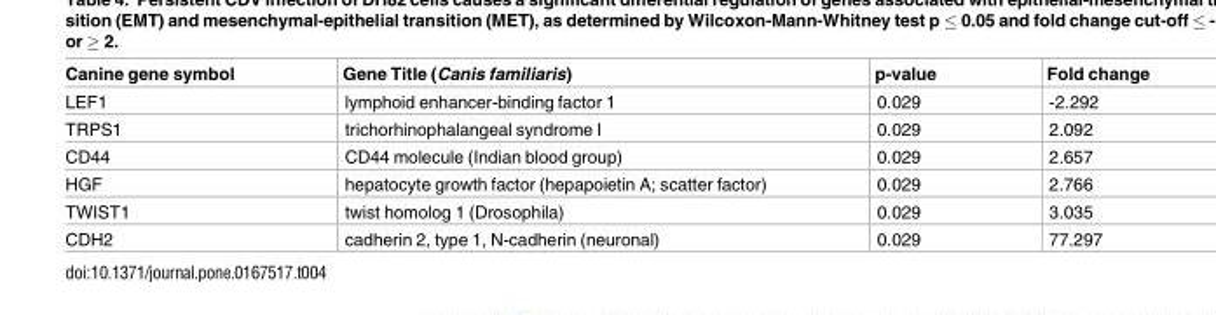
<table><thead><tr><td>Canine gene symbol</td><td>Gene Title (Canis familiaris)</td><td>p-value</td><td>Fold change</td></tr></thead><tbody><tr><td>LEF1</td><td>lymphoid enhancer-binding factor 1</td><td>0.029</td><td>-2.292</td></tr><tr><td>TRPS1</td><td>trichorhinophalangeal syndrome I</td><td>0.029</td><td>2.092</td></tr><tr><td>CD44</td><td>CD44 molecule (Indian blood group)</td><td>0.029</td><td>2.657</td></tr><tr><td>HGF</td><td>hepatocyte growth factor (hepapoietin A; scatter factor)</td><td>0.029</td><td>2.766</td></tr><tr><td>TWIST1</td><td>twist homolog 1 (Drosophila)</td><td>0.029</td><td>3.035</td></tr><tr><td>CDH2</td><td>cadherin 2, type 1, N-cadherin (neuronal)</td><td>0.029</td><td>77.297</td></tr></tbody></table>